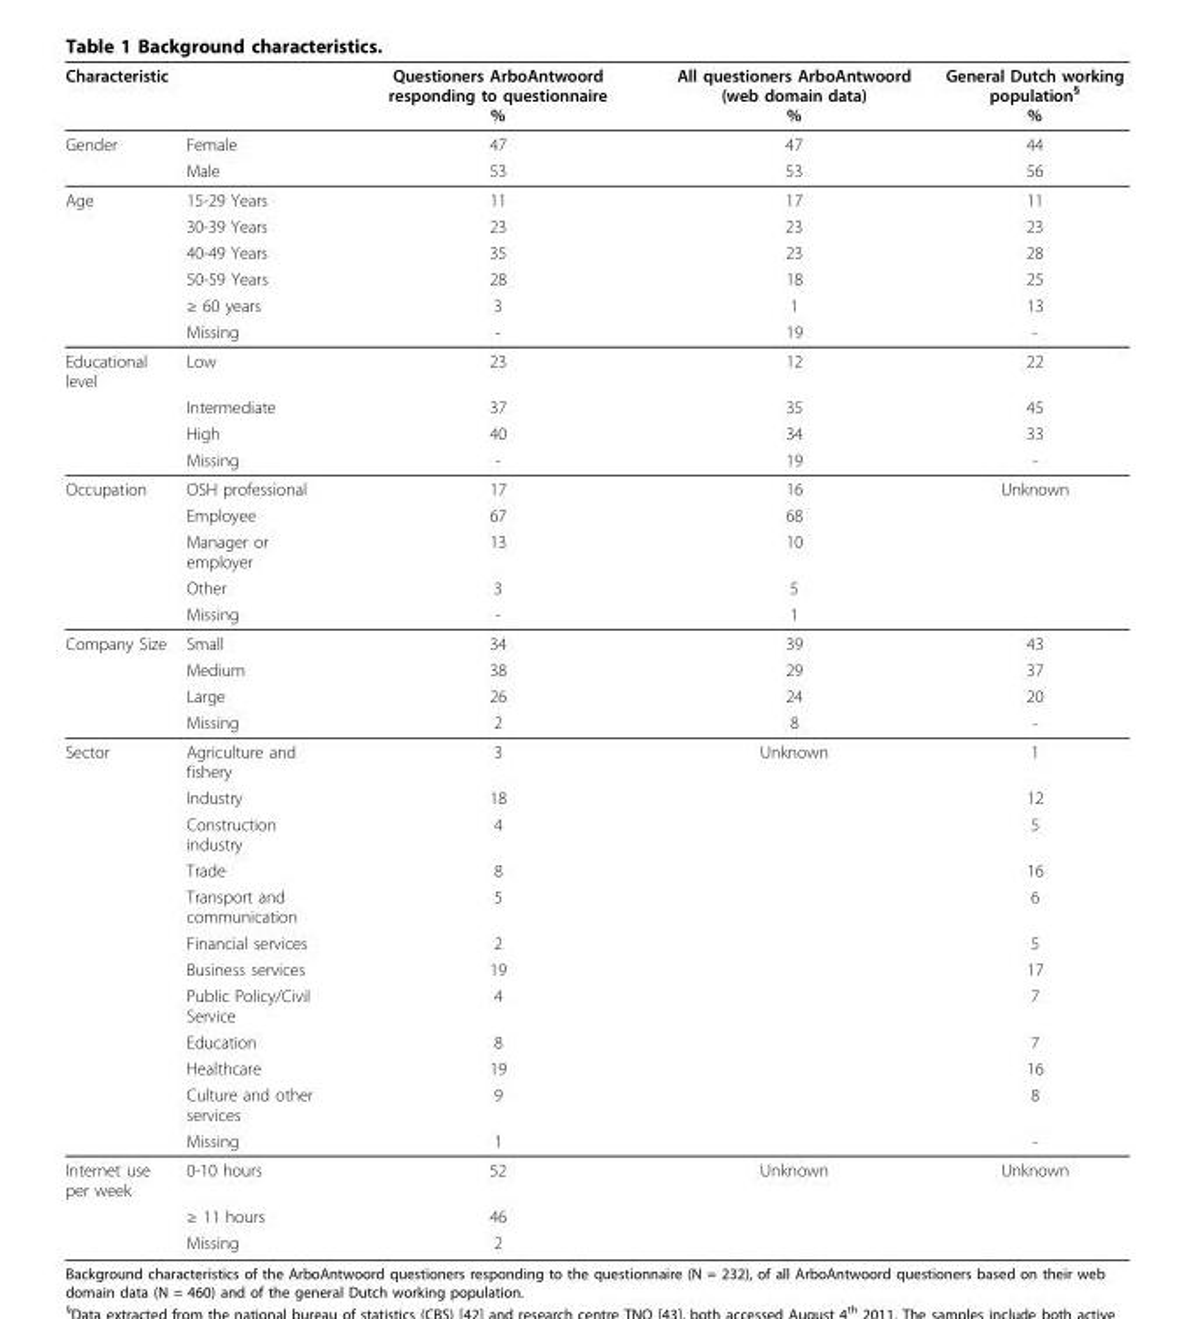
<table><thead><tr><td colspan="2">Characteristic</td><td rowspan="2">Questioners ArboAntwoord responding to questionnaire % 47</td><td rowspan="2">All questioners ArboAntwoord (web domain data) % 47</td><td rowspan="2">General Dutch working population§ % 44</td></tr><tr><td>Gender</td><td>Female</td></tr></thead><tbody><tr><td></td><td>Male</td><td>53</td><td>53</td><td>56</td></tr><tr><td rowspan="6">Age</td><td>15-29 Years</td><td>11</td><td>17</td><td>11</td></tr><tr><td>30-39 Years</td><td>23</td><td>23</td><td>23</td></tr><tr><td>40-49 Years</td><td>35</td><td>23</td><td>28</td></tr><tr><td>50-59 Years</td><td>28</td><td>18</td><td>25</td></tr><tr><td>≥ 60 years</td><td>3</td><td>1</td><td>13</td></tr><tr><td>Missing</td><td>-</td><td>19</td><td>-</td></tr><tr><td rowspan="4">Educational level</td><td>Low</td><td>23</td><td>12</td><td>22</td></tr><tr><td>Intermediate</td><td>37</td><td>35</td><td>45</td></tr><tr><td>High</td><td>40</td><td>34</td><td>33</td></tr><tr><td>Missing</td><td>-</td><td>19</td><td>-</td></tr><tr><td rowspan="5">Occupation</td><td>OSH professional</td><td>17</td><td>16</td><td>Unknown</td></tr><tr><td>Employee</td><td>67</td><td>68</td><td></td></tr><tr><td>Manager or employer</td><td>13</td><td>10</td><td></td></tr><tr><td>Other</td><td>3</td><td>5</td><td></td></tr><tr><td>Missing</td><td>-</td><td>1</td><td></td></tr><tr><td rowspan="4">Company Size</td><td>Small</td><td>34</td><td>39</td><td>43</td></tr><tr><td>Medium</td><td>38</td><td>29</td><td>37</td></tr><tr><td>Large</td><td>26</td><td>24</td><td>20</td></tr><tr><td>Missing</td><td>2</td><td>8</td><td>-</td></tr><tr><td rowspan="12">Sector</td><td>Agriculture and fishery</td><td>3</td><td>Unknown</td><td>1</td></tr><tr><td>Industry</td><td>18</td><td></td><td>12</td></tr><tr><td>Construction industry</td><td>4</td><td></td><td>5</td></tr><tr><td>Trade</td><td>8</td><td></td><td>16</td></tr><tr><td>Transport and communication</td><td>5</td><td></td><td>6</td></tr><tr><td>Financial services</td><td>2</td><td></td><td>5</td></tr><tr><td>Business services</td><td>19</td><td></td><td>17</td></tr><tr><td>Public Policy/Civil Service</td><td>4</td><td></td><td>7</td></tr><tr><td>Education</td><td>8</td><td></td><td>7</td></tr><tr><td>Healthcare</td><td>19</td><td></td><td>16</td></tr><tr><td>Culture and other services</td><td>9</td><td></td><td>8</td></tr><tr><td>Missing</td><td>1</td><td></td><td>-</td></tr><tr><td rowspan="3">Internet use per week</td><td>0-10 hours</td><td>52</td><td>Unknown</td><td>Unknown</td></tr><tr><td>≥ 11 hours</td><td>46</td><td></td><td></td></tr><tr><td>Missing</td><td>2</td><td></td><td></td></tr></tbody></table>